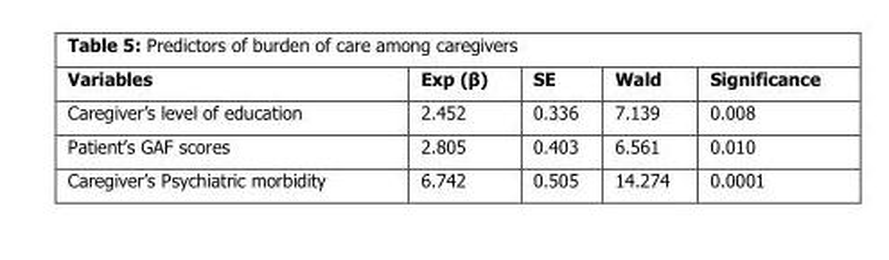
<table><thead><tr><td>Variables</td><td>Exp (β)</td><td>SE</td><td>Wald</td><td>Significance</td></tr></thead><tbody><tr><td>Caregiver’s level of education</td><td>2.452</td><td>0.336</td><td>7.139</td><td>0.008</td></tr><tr><td>Patient’s GAF scores</td><td>2.805</td><td>0.403</td><td>6.561</td><td>0.010</td></tr><tr><td>Caregiver’s Psychiatric morbidity</td><td>6.742</td><td>0.505</td><td>14.274</td><td>0.0001</td></tr></tbody></table>